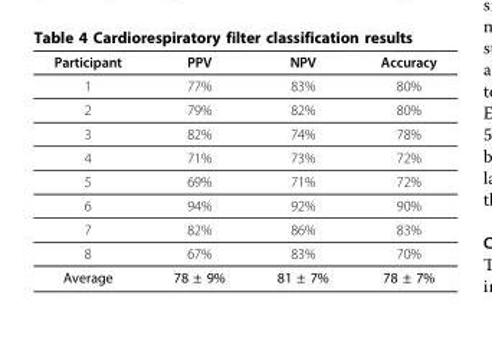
<table><thead><tr><td>Participant</td><td>PPV</td><td>NPV</td><td>Accuracy</td></tr></thead><tbody><tr><td>1</td><td>77%</td><td>83%</td><td>80%</td></tr><tr><td>2</td><td>79%</td><td>82%</td><td>80%</td></tr><tr><td>3</td><td>82%</td><td>74%</td><td>78%</td></tr><tr><td>4</td><td>71%</td><td>73%</td><td>72%</td></tr><tr><td>5</td><td>69%</td><td>71%</td><td>72%</td></tr><tr><td>6</td><td>94%</td><td>92%</td><td>90%</td></tr><tr><td>7</td><td>82%</td><td>86%</td><td>83%</td></tr><tr><td>8</td><td>67%</td><td>83%</td><td>70%</td></tr><tr><td>Average</td><td>78 ± 9%</td><td>81 ± 7%</td><td>78 ± 7%</td></tr></tbody></table>